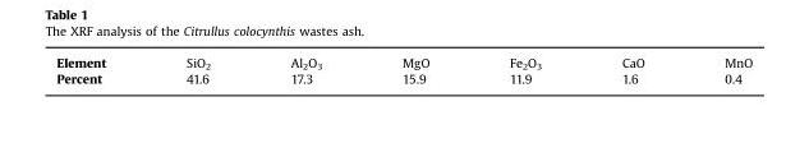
<table><tbody><tr><td>Element</td><td>SiO<sub>2</sub></td><td>Al<sub>2</sub>O<sub>3</sub></td><td>MgO</td><td>Fe<sub>2</sub>O<sub>3</sub></td><td>CaO</td><td>MnO</td></tr><tr><td>Percent</td><td>41.6</td><td>17.3</td><td>15.9</td><td>11.9</td><td>1.6</td><td>0.4</td></tr></tbody></table>